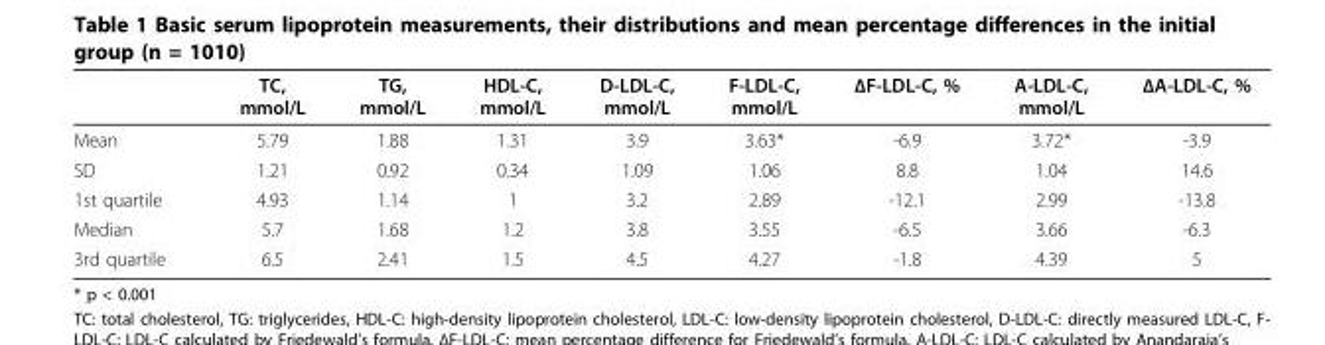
<table><thead><tr><td></td><td>TC, mmol/L</td><td>TG, mmol/L</td><td>HDL-C, mmol/L</td><td>D-LDL-C, mmol/L</td><td>F-LDL-C, mmol/L</td><td>ΔF-LDL-C, %</td><td>A-LDL-C, mmol/L</td><td>ΔA-LDL-C, %</td></tr></thead><tbody><tr><td>Mean</td><td>5.79</td><td>1.88</td><td>1.31</td><td>3.9</td><td>3.63*</td><td>-6.9</td><td>3.72*</td><td>-3.9</td></tr><tr><td>SD</td><td>1.21</td><td>0.92</td><td>0.34</td><td>1.09</td><td>1.06</td><td>8.8</td><td>1.04</td><td>14.6</td></tr><tr><td>1st quartile</td><td>4.93</td><td>1.14</td><td>1</td><td>3.2</td><td>2.89</td><td>-12.1</td><td>2.99</td><td>-13.8</td></tr><tr><td>Median</td><td>5.7</td><td>1.68</td><td>1.2</td><td>3.8</td><td>3.55</td><td>-6.5</td><td>3.66</td><td>-6.3</td></tr><tr><td>3rd quartile</td><td>6.5</td><td>2.41</td><td>1.5</td><td>4.5</td><td>4.27</td><td>-1.8</td><td>4.39</td><td>5</td></tr></tbody></table>